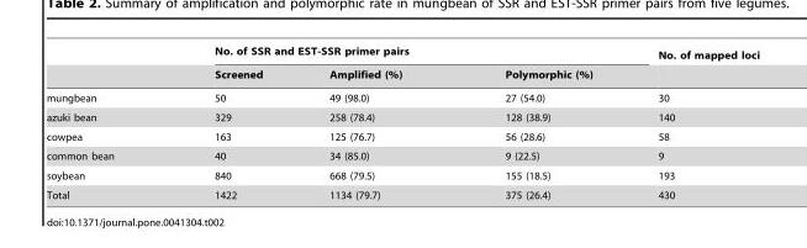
<table><thead><tr><td rowspan="2"></td><td colspan="3">No. of SSR and EST-SSR primer pairs</td><td rowspan="2">No. of mapped loci</td></tr><tr><td>Screened</td><td>Amplified (%)</td><td>Polymorphic (%)</td></tr></thead><tbody><tr><td>mungbean</td><td>50</td><td>49 (98.0)</td><td>27 (54.0)</td><td>30</td></tr><tr><td>azuki bean</td><td>329</td><td>258 (78.4)</td><td>128 (38.9)</td><td>140</td></tr><tr><td>cowpea</td><td>163</td><td>125 (76.7)</td><td>56 (28.6)</td><td>58</td></tr><tr><td>common bean</td><td>40</td><td>34 (85.0)</td><td>9 (22.5)</td><td>9</td></tr><tr><td>soybean</td><td>840</td><td>668 (79.5)</td><td>155 (18.5)</td><td>193</td></tr><tr><td>Total</td><td>1422</td><td>1134 (79.7)</td><td>375 (26.4)</td><td>430</td></tr></tbody></table>